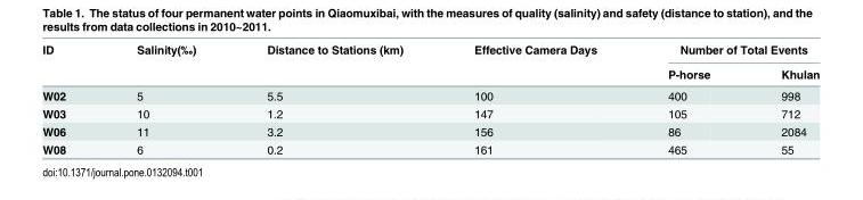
<table><thead><tr><td rowspan="2">ID</td><td rowspan="2">Salinity(‰)</td><td rowspan="2">Distance to Stations (km)</td><td rowspan="2">Effective Camera Days</td><td colspan="2">Number of Total Events</td></tr><tr><td>P-horse</td><td>Khulan</td></tr></thead><tbody><tr><td>W02</td><td>5</td><td>5.5</td><td>100</td><td>400</td><td>998</td></tr><tr><td>W03</td><td>10</td><td>1.2</td><td>147</td><td>105</td><td>712</td></tr><tr><td>W06</td><td>11</td><td>3.2</td><td>156</td><td>86</td><td>2084</td></tr><tr><td>W08</td><td>6</td><td>0.2</td><td>161</td><td>465</td><td>55</td></tr></tbody></table>